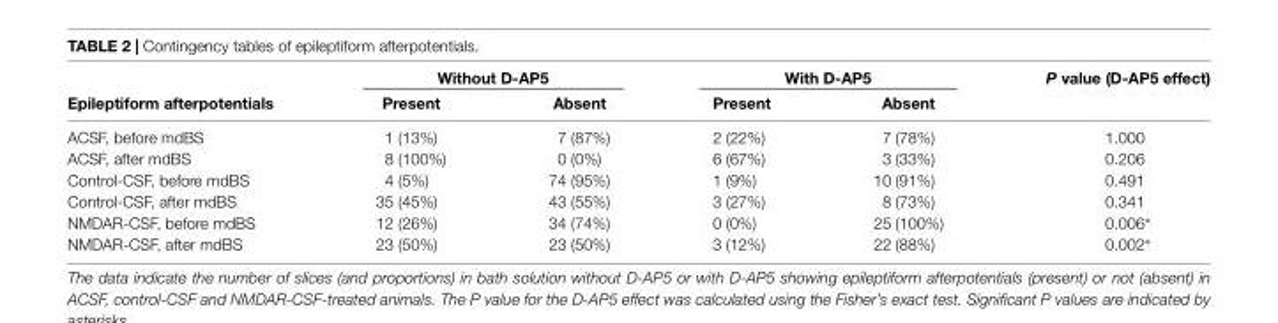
<table><thead><tr><td rowspan="2">Epileptiform afterpotentials</td><td colspan="2">Without D-AP5</td><td colspan="2">With D-AP5</td><td rowspan="2">P value (D-AP5 effect)</td></tr><tr><td>Present</td><td>Absent</td><td>Present</td><td>Absent</td></tr></thead><tbody><tr><td>ACSF, before mdBS</td><td>1 (13%)</td><td>7 (87%)</td><td>2 (22%)</td><td>7 (78%)</td><td>1.000</td></tr><tr><td>ACSF, after mdBS</td><td>8 (100%)</td><td>0 (0%)</td><td>6 (67%)</td><td>3 (33%)</td><td>0.206</td></tr><tr><td>Control-CSF, before mdBS</td><td>4 (5%)</td><td>74 (95%)</td><td>1 (9%)</td><td>10 (91%)</td><td>0.491</td></tr><tr><td>Control-CSF, after mdBS</td><td>35 (45%)</td><td>43 (55%)</td><td>3 (27%)</td><td>8 (73%)</td><td>0.341</td></tr><tr><td>NMDAR-CSF, before mdBS</td><td>12 (26%)</td><td>34 (74%)</td><td>0 (0%)</td><td>25 (100%)</td><td>0.006∗</td></tr><tr><td>NMDAR-CSF, after mdBS</td><td>23 (50%)</td><td>23 (50%)</td><td>3 (12%)</td><td>22 (88%)</td><td>0.002∗</td></tr></tbody></table>